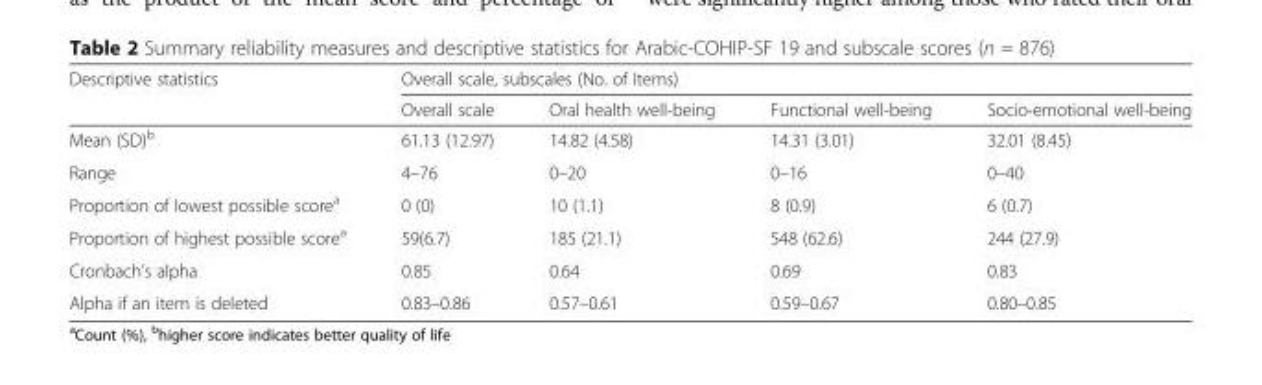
<table><thead><tr><td rowspan="2">Descriptive statistics</td><td colspan="4">Overall scale, subscales (No. of Items)</td></tr><tr><td>Overall scale</td><td>Oral health well-being</td><td>Functional well-being</td><td>Socio-emotional well-being</td></tr></thead><tbody><tr><td>Mean (SD)<sup>b</sup></td><td>61.13 (12.97)</td><td>14.82 (4.58)</td><td>14.31 (3.01)</td><td>32.01 (8.45)</td></tr><tr><td>Range</td><td>4–76</td><td>0–20</td><td>0–16</td><td>0–40</td></tr><tr><td>Proportion of lowest possible score<sup>a</sup></td><td>0 (0)</td><td>10 (1.1)</td><td>8 (0.9)</td><td>6 (0.7)</td></tr><tr><td>Proportion of highest possible score<sup>a</sup></td><td>59(6.7)</td><td>185 (21.1)</td><td>548 (62.6)</td><td>244 (27.9)</td></tr><tr><td>Cronbach’s alpha</td><td>0.85</td><td>0.64</td><td>0.69</td><td>0.83</td></tr><tr><td>Alpha if an item is deleted</td><td>0.83–0.86</td><td>0.57–0.61</td><td>0.59–0.67</td><td>0.80–0.85</td></tr></tbody></table>